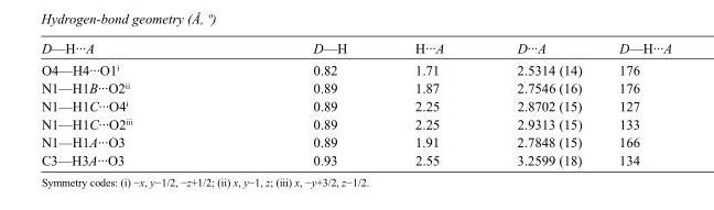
<table><tbody><tr><td>D—H···A</td><td>D—H</td><td>H···A</td><td>D···A</td><td>D—H···A</td></tr><tr><td>O4—H4···O1<sup>i</sup></td><td>0.82</td><td>1.71</td><td>2.5314 (14)</td><td>176</td></tr><tr><td>N1—H1B···O2<sup>ii</sup></td><td>0.89</td><td>1.87</td><td>2.7546 (16)</td><td>176</td></tr><tr><td>N1—H1C···O4<sup>i</sup></td><td>0.89</td><td>2.25</td><td>2.8702 (15)</td><td>127</td></tr><tr><td>N1—H1C···O2<sup>iii</sup></td><td>0.89</td><td>2.25</td><td>2.9313 (15)</td><td>133</td></tr><tr><td>N1—H1A···O3</td><td>0.89</td><td>1.91</td><td>2.7848 (15)</td><td>166</td></tr><tr><td>C3—H3A···O3</td><td>0.93</td><td>2.55</td><td>3.2599 (18)</td><td>134</td></tr></tbody></table>